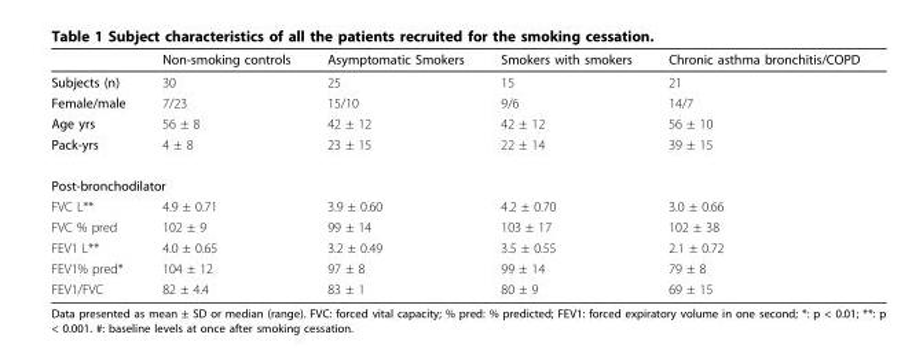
<table><thead><tr><td></td><td>Non-smoking controls</td><td>Asymptomatic Smokers</td><td>Smokers with smokers</td><td>Chronic asthma bronchitis/COPD</td></tr></thead><tbody><tr><td>Subjects (n)</td><td>30</td><td>25</td><td>15</td><td>21</td></tr><tr><td>Female/male</td><td>7/23</td><td>15/10</td><td>9/6</td><td>14/7</td></tr><tr><td>Age yrs</td><td>56 ± 8</td><td>42 ± 12</td><td>42 ± 12</td><td>56 ± 10</td></tr><tr><td>Pack-yrs</td><td>4 ± 8</td><td>23 ± 15</td><td>22 ± 14</td><td>39 ± 15</td></tr><tr><td colspan="5">Post-bronchodilator</td></tr><tr><td>FVC L**</td><td>4.9 ± 0.71</td><td>3.9 ± 0.60</td><td>4.2 ± 0.70</td><td>3.0 ± 0.66</td></tr><tr><td>FVC % pred</td><td>102 ± 9</td><td>99 ± 14</td><td>103 ± 17</td><td>102 ± 38</td></tr><tr><td>FEV1 L**</td><td>4.0 ± 0.65</td><td>3.2 ± 0.49</td><td>3.5 ± 0.55</td><td>2.1 ± 0.72</td></tr><tr><td>FEV1% pred*</td><td>104 ± 12</td><td>97 ± 8</td><td>99 ± 14</td><td>79 ± 8</td></tr><tr><td>FEV1/FVC</td><td>82 ± 4.4</td><td>83 ± 1</td><td>80 ± 9</td><td>69 ± 15</td></tr></tbody></table>